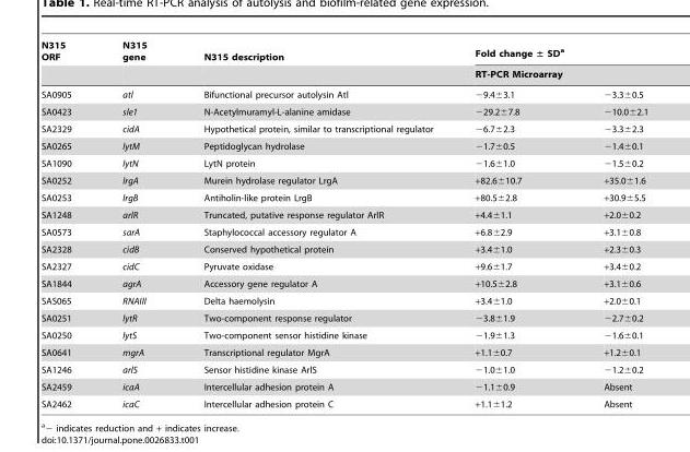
<table><thead><tr><td rowspan="3">N315 ORF SA0905</td><td rowspan="3">N315 gene atl</td><td rowspan="3">N315 description Bifunctional precursor autolysin Atl</td><td rowspan="2" colspan="2">Fold change ± SD<sup>a</sup> RT-PCR Microarray</td></tr><tr></tr><tr><td>−9.4±3.1</td><td>−3.3±0.5</td></tr></thead><tbody><tr><td>SA0423</td><td>sle1</td><td>N-Acetylmuramyl-L-alanine amidase</td><td>−29.2±7.8</td><td>−10.0±2.1</td></tr><tr><td>SA2329</td><td>cidA</td><td>Hypothetical protein, similar to transcriptional regulator</td><td>−6.7±2.3</td><td>−3.3±2.3</td></tr><tr><td>SA0265</td><td>lytM</td><td>Peptidoglycan hydrolase</td><td>−1.7±0.5</td><td>−1.4±0.1</td></tr><tr><td>SA1090</td><td>lytN</td><td>LytN protein</td><td>−1.6±1.0</td><td>−1.5±0.2</td></tr><tr><td>SA0252</td><td>lrgA</td><td>Murein hydrolase regulator LrgA</td><td>+82.6±10.7</td><td>+35.0±1.6</td></tr><tr><td>SA0253</td><td>lrgB</td><td>Antiholin-like protein LrgB</td><td>+80.5±2.8</td><td>+30.9±5.5</td></tr><tr><td>SA1248</td><td>arlR</td><td>Truncated, putative response regulator ArlR</td><td>+4.4±1.1</td><td>+2.0±0.2</td></tr><tr><td>SA0573</td><td>sarA</td><td>Staphylococcal accessory regulator A</td><td>+6.8±2.9</td><td>+3.1±0.8</td></tr><tr><td>SA2328</td><td>cidB</td><td>Conserved hypothetical protein</td><td>+3.4±1.0</td><td>+2.3±0.3</td></tr><tr><td>SA2327</td><td>cidC</td><td>Pyruvate oxidase</td><td>+9.6±1.7</td><td>+3.4±0.2</td></tr><tr><td>SA1844</td><td>agrA</td><td>Accessory gene regulator A</td><td>+10.5±2.8</td><td>+3.1±0.6</td></tr><tr><td>SAS065</td><td>RNAIII</td><td>Delta haemolysin</td><td>+3.4±1.0</td><td>+2.0±0.1</td></tr><tr><td>SA0251</td><td>lytR</td><td>Two-component response regulator</td><td>−3.8±1.9</td><td>−2.7±0.2</td></tr><tr><td>SA0250</td><td>lytS</td><td>Two-component sensor histidine kinase</td><td>−1.9±1.3</td><td>−1.6±0.1</td></tr><tr><td>SA0641</td><td>mgrA</td><td>Transcriptional regulator MgrA</td><td>+1.1±0.7</td><td>+1.2±0.1</td></tr><tr><td>SA1246</td><td>arlS</td><td>Sensor histidine kinase ArlS</td><td>−1.0±1.0</td><td>−1.2±0.2</td></tr><tr><td>SA2459</td><td>icaA</td><td>Intercellular adhesion protein A</td><td>−1.1±0.9</td><td>Absent</td></tr><tr><td>SA2462</td><td>icaC</td><td>Intercellular adhesion protein C</td><td>+1.1±1.2</td><td>Absent</td></tr></tbody></table>